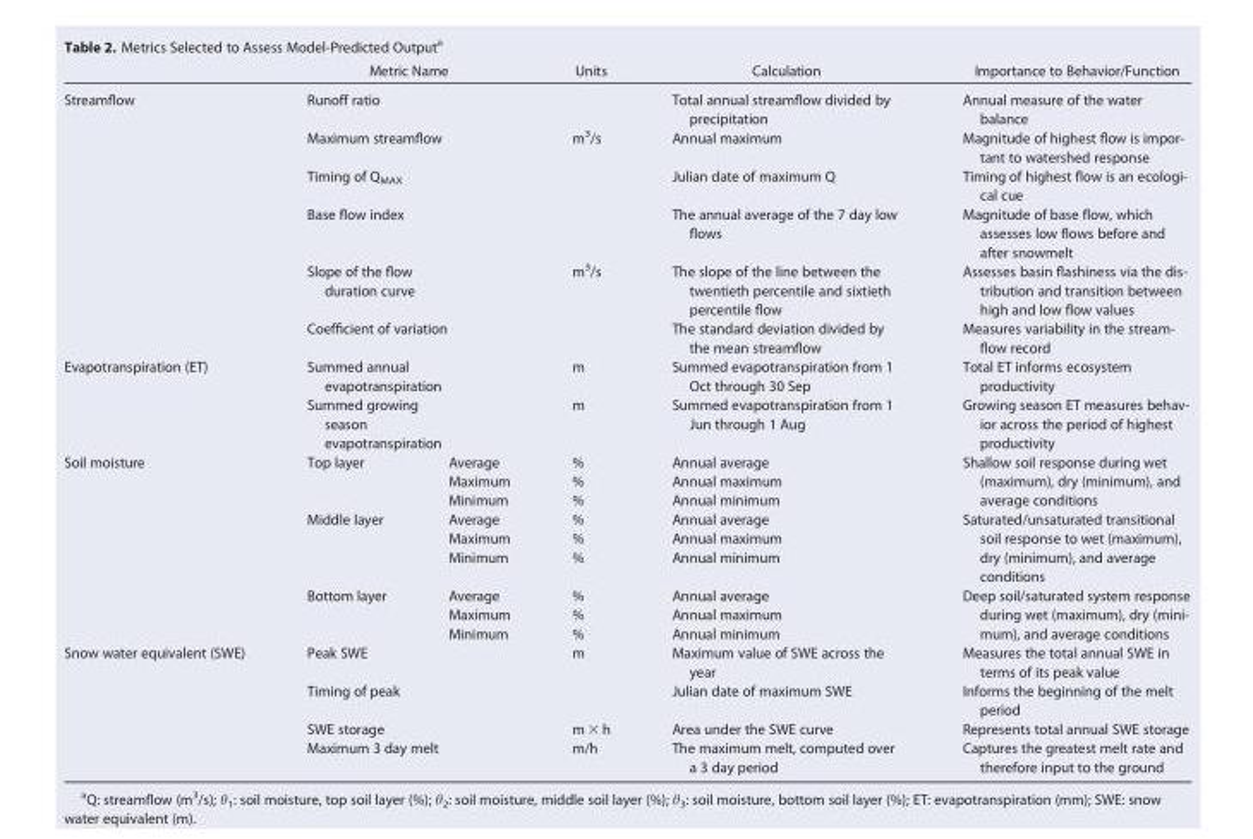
<table><thead><tr><td></td><td colspan="2">Metric Name</td><td>Units</td><td>Calculation</td><td>Importance to Behavior/Function</td></tr></thead><tbody><tr><td rowspan="6">Streamflow</td><td colspan="2">Runoff ratio</td><td></td><td>Total annual streamflow divided by precipitation</td><td>Annual measure of the water balance</td></tr><tr><td colspan="2">Maximum streamflow</td><td>m<sup>3</sup>/s</td><td>Annual maximum</td><td>Magnitude of highest flow is impor- tant to watershed response</td></tr><tr><td colspan="2">Timing of Q<sub>MAX</sub></td><td></td><td>Julian date of maximum Q</td><td>Timing of highest flow is an ecologi- cal cue</td></tr><tr><td colspan="2">Base flow index</td><td></td><td>The annual average of the 7 day low flows</td><td>Magnitude of base flow, which assesses low flows before and after snowmelt</td></tr><tr><td colspan="2">Slope of the flow duration curve</td><td>m<sup>3</sup>/s</td><td>The slope of the line between the twentieth percentile and sixtieth percentile flow</td><td>Assesses basin flashiness via the dis- tribution and transition between high and low flow values</td></tr><tr><td colspan="2">Coefficient of variation</td><td></td><td>The standard deviation divided by the mean streamflow</td><td>Measures variability in the stream- flow record</td></tr><tr><td rowspan="2">Evapotranspiration (ET)</td><td colspan="2">Summed annual evapotranspiration</td><td>m</td><td>Summed evapotranspiration from 1 Oct through 30 Sep</td><td>Total ET informs ecosystem productivity</td></tr><tr><td colspan="2">Summed growing season evapotranspiration</td><td>m</td><td>Summed evapotranspiration from 1 Jun through 1 Aug</td><td>Growing season ET measures behav- ior across the period of highest productivity</td></tr><tr><td rowspan="9">Soil moisture</td><td rowspan="3">Top layer</td><td>Average</td><td>%</td><td>Annual average</td><td rowspan="3">Shallow soil response during wet (maximum), dry (minimum), and average conditions</td></tr><tr><td>Maximum</td><td>%</td><td>Annual maximum</td></tr><tr><td>Minimum</td><td>%</td><td>Annual minimum</td></tr><tr><td rowspan="3">Middle layer</td><td>Average</td><td>%</td><td>Annual average</td><td rowspan="3">Saturated/unsaturated transitional soil response to wet (maximum), dry (minimum), and average conditions</td></tr><tr><td>Maximum</td><td>%</td><td>Annual maximum</td></tr><tr><td>Minimum</td><td>%</td><td>Annual minimum</td></tr><tr><td rowspan="3">Bottom layer</td><td>Average</td><td>%</td><td>Annual average</td><td rowspan="3">Deep soil/saturated system response during wet (maximum), dry (mini- mum), and average conditions</td></tr><tr><td>Maximum</td><td>%</td><td>Annual maximum</td></tr><tr><td>Minimum</td><td>%</td><td>Annual minimum</td></tr><tr><td rowspan="4">Snow water equivalent (SWE)</td><td colspan="2">Peak SWE</td><td>m</td><td>Maximum value of SWE across the year</td><td>Measures the total annual SWE in terms of its peak value</td></tr><tr><td colspan="2">Timing of peak</td><td></td><td>Julian date of maximum SWE</td><td>Informs the beginning of the melt period</td></tr><tr><td colspan="2">SWE storage</td><td>m × h</td><td>Area under the SWE curve</td><td>Represents total annual SWE storage</td></tr><tr><td colspan="2">Maximum 3 day melt</td><td>m/h</td><td>The maximum melt, computed over a 3 day period</td><td>Captures the greatest melt rate and therefore input to the ground</td></tr></tbody></table>